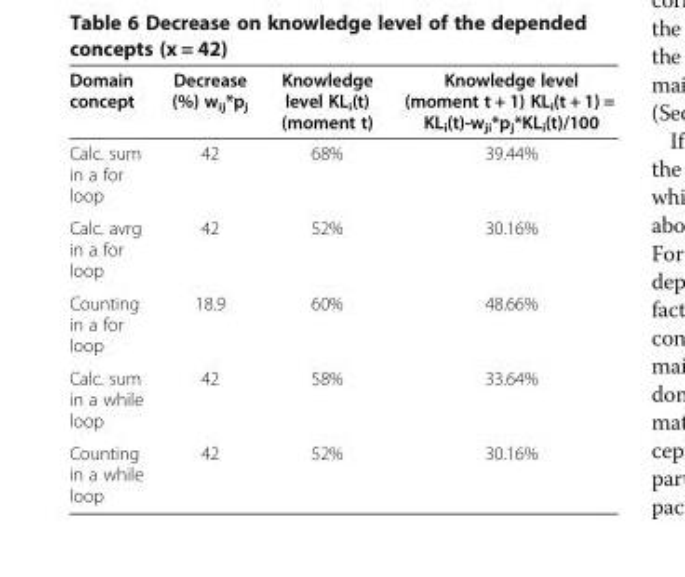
<table><thead><tr><td>Domain concept</td><td>Decrease (%) w<sub>ij</sub>*p<sub>j</sub></td><td>Knowledge level KL<sub>i</sub>(t) (moment t)</td><td>Knowledge level (moment t + 1) KL<sub>i</sub>(t + 1) = KL<sub>i</sub>(t)-w<sub>ji</sub>*p<sub>j</sub>*KL<sub>i</sub>(t)/100</td></tr></thead><tbody><tr><td>Calc. sum in a for loop</td><td>42</td><td>68%</td><td>39.44%</td></tr><tr><td>Calc. avrg in a for loop</td><td>42</td><td>52%</td><td>30.16%</td></tr><tr><td>Counting in a for loop</td><td>18.9</td><td>60%</td><td>48.66%</td></tr><tr><td>Calc. sum in a while loop</td><td>42</td><td>58%</td><td>33.64%</td></tr><tr><td>Counting in a while loop</td><td>42</td><td>52%</td><td>30.16%</td></tr></tbody></table>